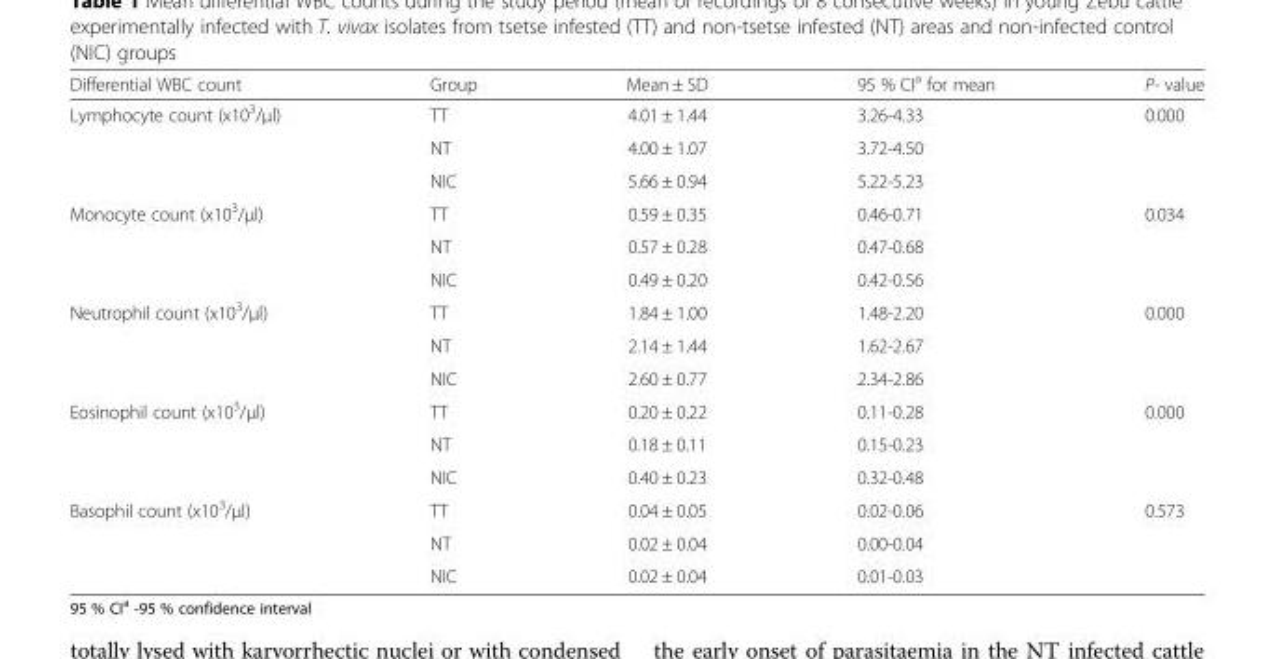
<table><thead><tr><td>Differential WBC count</td><td>Group</td><td>Mean ± SD</td><td>95 % CI<sup>a</sup> for mean</td><td>P- value</td></tr></thead><tbody><tr><td rowspan="3">Lymphocyte count (x10<sup>3</sup>/μl)</td><td>TT</td><td>4.01 ± 1.44</td><td>3.26-4.33</td><td rowspan="3">0.000</td></tr><tr><td>NT</td><td>4.00 ± 1.07</td><td>3.72-4.50</td></tr><tr><td>NIC</td><td>5.66 ± 0.94</td><td>5.22-5.23</td></tr><tr><td rowspan="3">Monocyte count (x10<sup>3</sup>/μl)</td><td>TT</td><td>0.59 ± 0.35</td><td>0.46-0.71</td><td rowspan="3">0.034</td></tr><tr><td>NT</td><td>0.57 ± 0.28</td><td>0.47-0.68</td></tr><tr><td>NIC</td><td>0.49 ± 0.20</td><td>0.42-0.56</td></tr><tr><td rowspan="3">Neutrophil count (x10<sup>3</sup>/μl)</td><td>TT</td><td>1.84 ± 1.00</td><td>1.48-2.20</td><td rowspan="3">0.000</td></tr><tr><td>NT</td><td>2.14 ± 1.44</td><td>1.62-2.67</td></tr><tr><td>NIC</td><td>2.60 ± 0.77</td><td>2.34-2.86</td></tr><tr><td rowspan="3">Eosinophil count (x10<sup>3</sup>/μl)</td><td>TT</td><td>0.20 ± 0.22</td><td>0.11-0.28</td><td rowspan="3">0.000</td></tr><tr><td>NT</td><td>0.18 ± 0.11</td><td>0.15-0.23</td></tr><tr><td>NIC</td><td>0.40 ± 0.23</td><td>0.32-0.48</td></tr><tr><td rowspan="3">Basophil count (x10<sup>3</sup>/μl)</td><td>TT</td><td>0.04 ± 0.05</td><td>0.02-0.06</td><td rowspan="3">0.573</td></tr><tr><td>NT</td><td>0.02 ± 0.04</td><td>0.00-0.04</td></tr><tr><td>NIC</td><td>0.02 ± 0.04</td><td>0.01-0.03</td></tr></tbody></table>